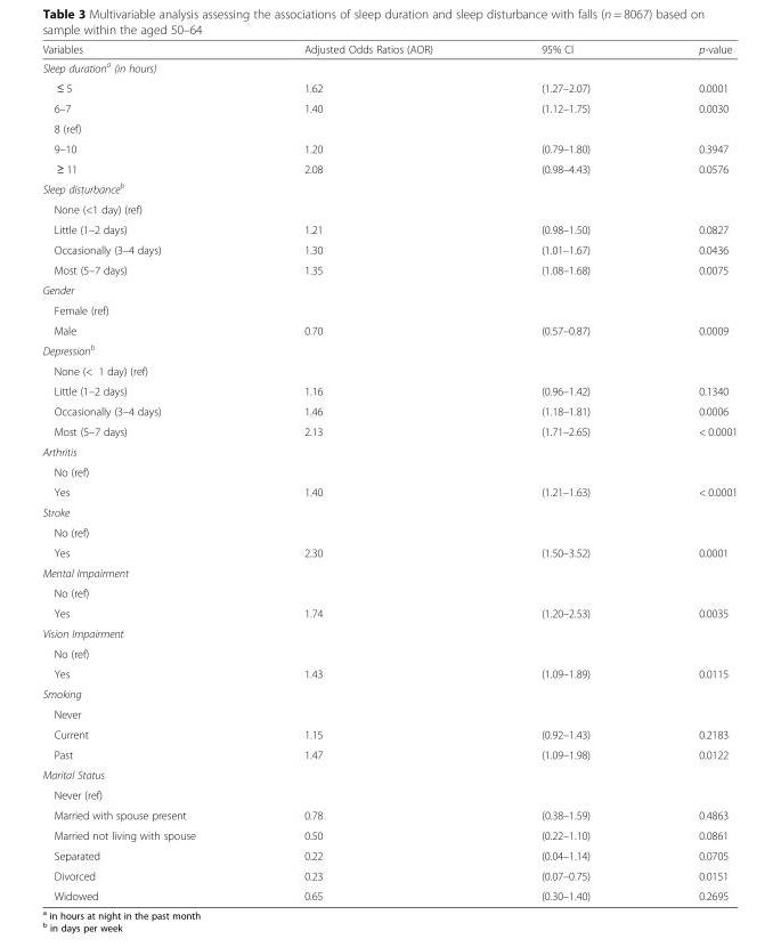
<table><thead><tr><td>Variables</td><td>Adjusted Odds Ratios (AOR)</td><td>95% Cl</td><td>p-value</td></tr></thead><tbody><tr><td colspan="4">Sleep duration<sup>a</sup> (in hours)</td></tr><tr><td>≤ 5</td><td>1.62</td><td>(1.27–2.07)</td><td>0.0001</td></tr><tr><td>6–7</td><td>1.40</td><td>(1.12–1.75)</td><td>0.0030</td></tr><tr><td colspan="4">8 (ref)</td></tr><tr><td>9–10</td><td>1.20</td><td>(0.79–1.80)</td><td>0.3947</td></tr><tr><td>≥ 11</td><td>2.08</td><td>(0.98–4.43)</td><td>0.0576</td></tr><tr><td colspan="4">Sleep disturbance<sup>b</sup></td></tr><tr><td colspan="4">None (&lt;1 day) (ref)</td></tr><tr><td>Little (1–2 days)</td><td>1.21</td><td>(0.98–1.50)</td><td>0.0827</td></tr><tr><td>Occasionally (3–4 days)</td><td>1.30</td><td>(1.01–1.67)</td><td>0.0436</td></tr><tr><td>Most (5–7 days)</td><td>1.35</td><td>(1.08–1.68)</td><td>0.0075</td></tr><tr><td colspan="4">Gender</td></tr><tr><td colspan="4">Female (ref)</td></tr><tr><td>Male</td><td>0.70</td><td>(0.57–0.87)</td><td>0.0009</td></tr><tr><td colspan="4">Depression<sup>b</sup></td></tr><tr><td colspan="4">None (&lt; 1 day) (ref)</td></tr><tr><td>Little (1–2 days)</td><td>1.16</td><td>(0.96–1.42)</td><td>0.1340</td></tr><tr><td>Occasionally (3–4 days)</td><td>1.46</td><td>(1.18–1.81)</td><td>0.0006</td></tr><tr><td>Most (5–7 days)</td><td>2.13</td><td>(1.71–2.65)</td><td>&lt; 0.0001</td></tr><tr><td colspan="4">Arthritis</td></tr><tr><td colspan="4">No (ref)</td></tr><tr><td>Yes</td><td>1.40</td><td>(1.21–1.63)</td><td>&lt; 0.0001</td></tr><tr><td colspan="4">Stroke</td></tr><tr><td colspan="4">No (ref)</td></tr><tr><td>Yes</td><td>2.30</td><td>(1.50–3.52)</td><td>0.0001</td></tr><tr><td colspan="4">Mental Impairment</td></tr><tr><td colspan="4">No (ref)</td></tr><tr><td>Yes</td><td>1.74</td><td>(1.20–2.53)</td><td>0.0035</td></tr><tr><td colspan="4">Vision Impairment</td></tr><tr><td colspan="4">No (ref)</td></tr><tr><td>Yes</td><td>1.43</td><td>(1.09–1.89)</td><td>0.0115</td></tr><tr><td colspan="4">Smoking</td></tr><tr><td colspan="4">Never</td></tr><tr><td>Current</td><td>1.15</td><td>(0.92–1.43)</td><td>0.2183</td></tr><tr><td>Past</td><td>1.47</td><td>(1.09–1.98)</td><td>0.0122</td></tr><tr><td colspan="4">Marital Status</td></tr><tr><td colspan="4">Never (ref)</td></tr><tr><td>Married with spouse present</td><td>0.78</td><td>(0.38–1.59)</td><td>0.4863</td></tr><tr><td>Married not living with spouse</td><td>0.50</td><td>(0.22–1.10)</td><td>0.0861</td></tr><tr><td>Separated</td><td>0.22</td><td>(0.04–1.14)</td><td>0.0705</td></tr><tr><td>Divorced</td><td>0.23</td><td>(0.07–0.75)</td><td>0.0151</td></tr><tr><td>Widowed</td><td>0.65</td><td>(0.30–1.40)</td><td>0.2695</td></tr></tbody></table>